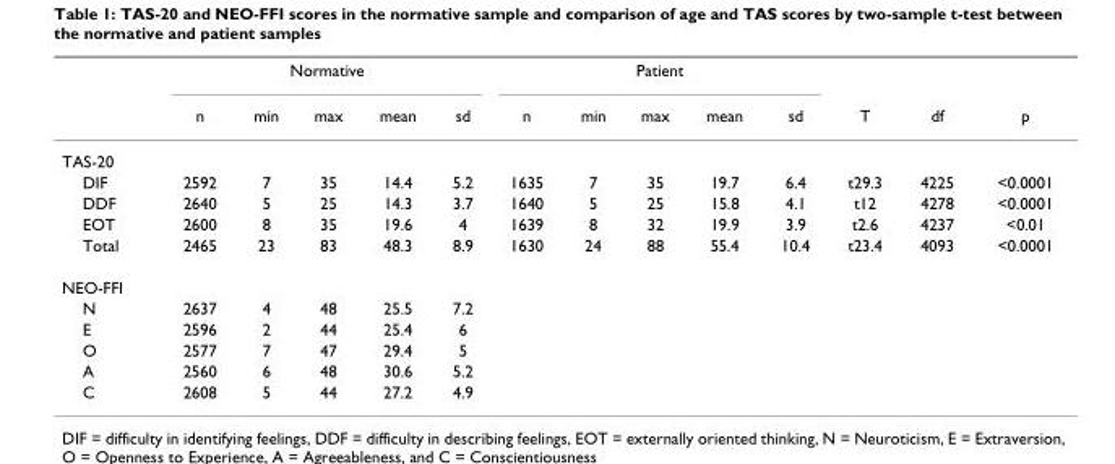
<table><thead><tr><td rowspan="2"></td><td colspan="5">Normative</td><td colspan="5">Patient</td><td rowspan="2">T</td><td rowspan="2">df</td><td rowspan="2">p</td></tr><tr><td>n</td><td>min</td><td>max</td><td>mean</td><td>sd</td><td>n</td><td>min</td><td>max</td><td>mean</td><td>sd</td></tr></thead><tbody><tr><td colspan="14">TAS-20</td></tr><tr><td>DIF</td><td>2592</td><td>7</td><td>35</td><td>14.4</td><td>5.2</td><td>1635</td><td>7</td><td>35</td><td>19.7</td><td>6.4</td><td>t29.3</td><td>4225</td><td>&lt;0.0001</td></tr><tr><td>DDF</td><td>2640</td><td>5</td><td>25</td><td>14.3</td><td>3.7</td><td>1640</td><td>5</td><td>25</td><td>15.8</td><td>4.1</td><td>t12</td><td>4278</td><td>&lt;0.0001</td></tr><tr><td>EOT</td><td>2600</td><td>8</td><td>35</td><td>19.6</td><td>4</td><td>1639</td><td>8</td><td>32</td><td>19.9</td><td>3.9</td><td>t2.6</td><td>4237</td><td>&lt;0.01</td></tr><tr><td>Total</td><td>2465</td><td>23</td><td>83</td><td>48.3</td><td>8.9</td><td>1630</td><td>24</td><td>88</td><td>55.4</td><td>10.4</td><td>t23.4</td><td>4093</td><td>&lt;0.0001</td></tr><tr><td colspan="14">NEO-FFI</td></tr><tr><td>N</td><td>2637</td><td>4</td><td>48</td><td>25.5</td><td>7.2</td><td></td><td></td><td></td><td></td><td></td><td></td><td></td><td></td></tr><tr><td>E</td><td>2596</td><td>2</td><td>44</td><td>25.4</td><td>6</td><td></td><td></td><td></td><td></td><td></td><td></td><td></td><td></td></tr><tr><td>O</td><td>2577</td><td>7</td><td>47</td><td>29.4</td><td>5</td><td></td><td></td><td></td><td></td><td></td><td></td><td></td><td></td></tr><tr><td>A</td><td>2560</td><td>6</td><td>48</td><td>30.6</td><td>5.2</td><td></td><td></td><td></td><td></td><td></td><td></td><td></td><td></td></tr><tr><td>C</td><td>2608</td><td>5</td><td>44</td><td>27.2</td><td>4.9</td><td></td><td></td><td></td><td></td><td></td><td></td><td></td><td></td></tr></tbody></table>